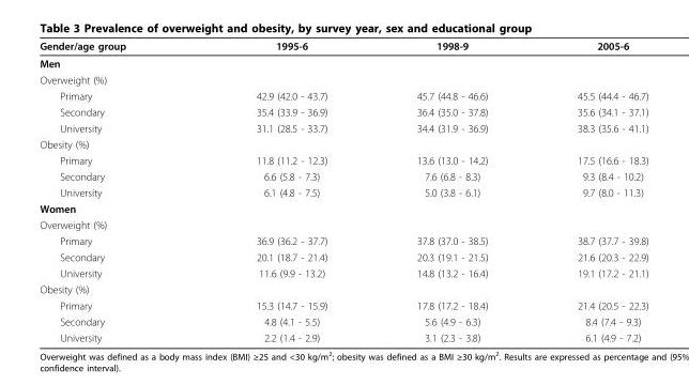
<table><thead><tr><td>Gender/age group</td><td>1995-6</td><td>1998-9</td><td>2005-6</td></tr></thead><tbody><tr><td colspan="4">Men</td></tr><tr><td colspan="4">Overweight (%)</td></tr><tr><td>Primary</td><td>42.9 (42.0 - 43.7)</td><td>45.7 (44.8 - 46.6)</td><td>45.5 (44.4 - 46.7)</td></tr><tr><td>Secondary</td><td>35.4 (33.9 - 36.9)</td><td>36.4 (35.0 - 37.8)</td><td>35.6 (34.1 - 37.1)</td></tr><tr><td>University</td><td>31.1 (28.5 - 33.7)</td><td>34.4 (31.9 - 36.9)</td><td>38.3 (35.6 - 41.1)</td></tr><tr><td colspan="4">Obesity (%)</td></tr><tr><td>Primary</td><td>11.8 (11.2 - 12.3)</td><td>13.6 (13.0 - 14.2)</td><td>17.5 (16.6 - 18.3)</td></tr><tr><td>Secondary</td><td>6.6 (5.8 - 7.3)</td><td>7.6 (6.8 - 8.3)</td><td>9.3 (8.4 - 10.2)</td></tr><tr><td>University</td><td>6.1 (4.8 - 7.5)</td><td>5.0 (3.8 - 6.1)</td><td>9.7 (8.0 - 11.3)</td></tr><tr><td colspan="4">Women</td></tr><tr><td colspan="4">Overweight (%)</td></tr><tr><td>Primary</td><td>36.9 (36.2 - 37.7)</td><td>37.8 (37.0 - 38.5)</td><td>38.7 (37.7 - 39.8)</td></tr><tr><td>Secondary</td><td>20.1 (18.7 - 21.4)</td><td>20.3 (19.1 - 21.5)</td><td>21.6 (20.3 - 22.9)</td></tr><tr><td>University</td><td>11.6 (9.9 - 13.2)</td><td>14.8 (13.2 - 16.4)</td><td>19.1 (17.2 - 21.1)</td></tr><tr><td colspan="4">Obesity (%)</td></tr><tr><td>Primary</td><td>15.3 (14.7 - 15.9)</td><td>17.8 (17.2 - 18.4)</td><td>21.4 (20.5 - 22.3)</td></tr><tr><td>Secondary</td><td>4.8 (4.1 - 5.5)</td><td>5.6 (4.9 - 6.3)</td><td>8.4 (7.4 - 9.3)</td></tr><tr><td>University</td><td>2.2 (1.4 - 2.9)</td><td>3.1 (2.3 - 3.8)</td><td>6.1 (4.9 - 7.2)</td></tr></tbody></table>